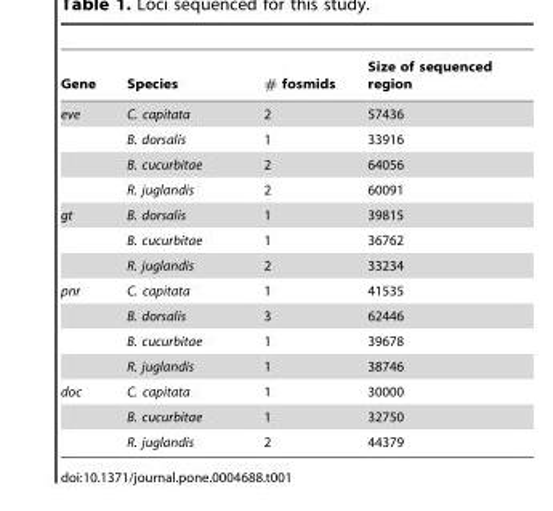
<table><thead><tr><td>Gene</td><td>Species</td><td># fosmids</td><td>Size of sequenced region</td></tr></thead><tbody><tr><td rowspan="4">eve</td><td>C. capitata</td><td>2</td><td>57436</td></tr><tr><td>B. dorsalis</td><td>1</td><td>33916</td></tr><tr><td>B. cucurbitae</td><td>2</td><td>64056</td></tr><tr><td>R. juglandis</td><td>2</td><td>60091</td></tr><tr><td rowspan="3">gt</td><td>B. dorsalis</td><td>1</td><td>39815</td></tr><tr><td>B. cucurbitae</td><td>1</td><td>36762</td></tr><tr><td>R. juglandis</td><td>2</td><td>33234</td></tr><tr><td rowspan="4">pnr</td><td>C. capitata</td><td>1</td><td>41535</td></tr><tr><td>B. dorsalis</td><td>3</td><td>62446</td></tr><tr><td>B. cucurbitae</td><td>1</td><td>39678</td></tr><tr><td>R. juglandis</td><td>1</td><td>38746</td></tr><tr><td rowspan="3">doc</td><td>C. capitata</td><td>1</td><td>30000</td></tr><tr><td>B. cucurbitae</td><td>1</td><td>32750</td></tr><tr><td>R. juglandis</td><td>2</td><td>44379</td></tr></tbody></table>